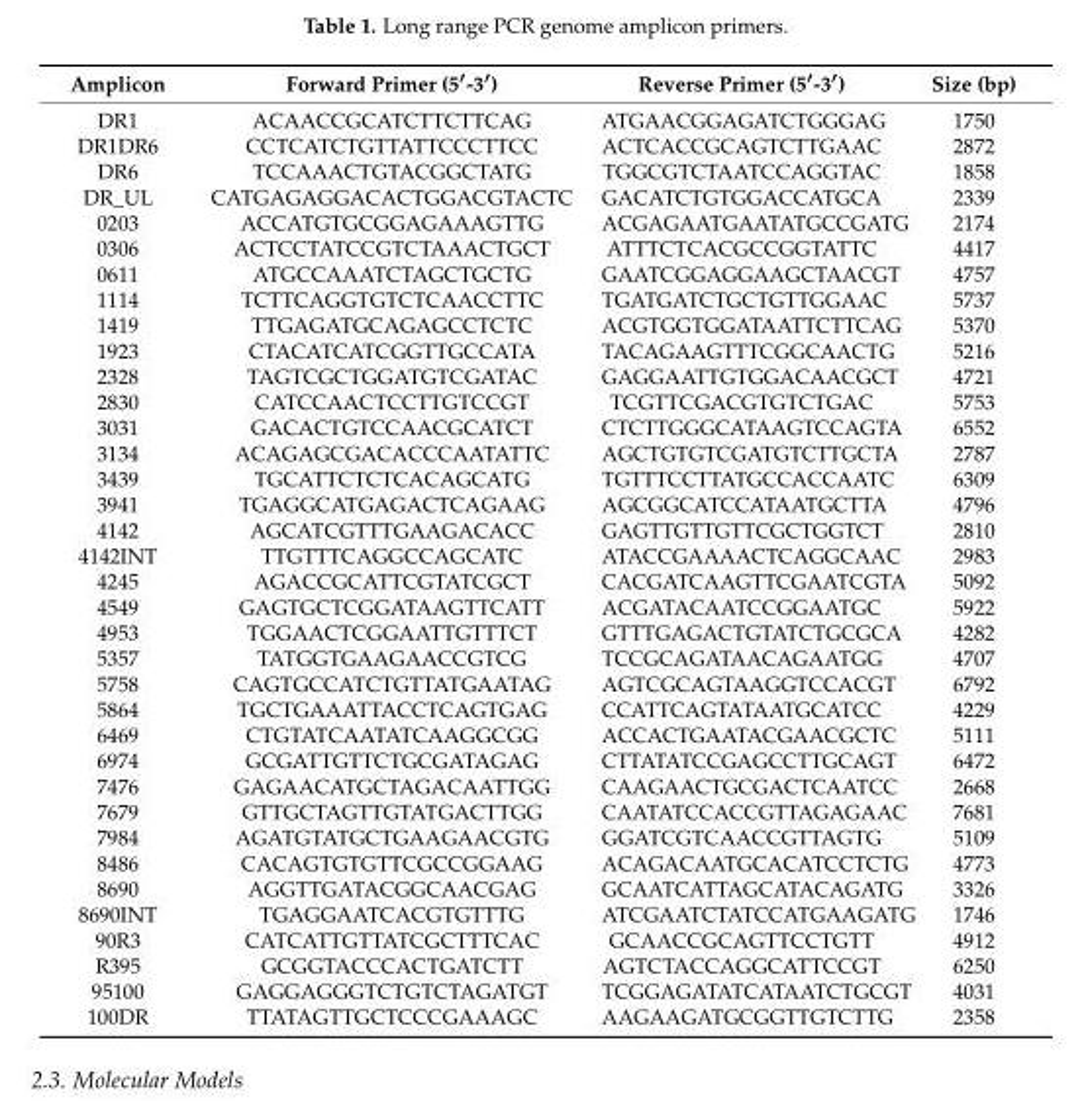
<table><thead><tr><td>Amplicon</td><td>Forward Primer (5′-3′)</td><td>Reverse Primer (5′-3′)</td><td>Size (bp)</td></tr></thead><tbody><tr><td>DR1</td><td>ACAACCGCATCTTCTTCAG</td><td>ATGAACGGAGATCTGGGAG</td><td>1750</td></tr><tr><td>DR1DR6</td><td>CCTCATCTGTTATTCCCTTCC</td><td>ACTCACCGCAGTCTTGAAC</td><td>2872</td></tr><tr><td>DR6</td><td>TCCAAACTGTACGGCTATG</td><td>TGGCGTCTAATCCAGGTAC</td><td>1858</td></tr><tr><td>DR_UL</td><td>CATGAGAGGACACTGGACGTACTC</td><td>GACATCTGTGGACCATGCA</td><td>2339</td></tr><tr><td>0203</td><td>ACCATGTGCGGAGAAAGTTG</td><td>ACGAGAATGAATATGCCGATG</td><td>2174</td></tr><tr><td>0306</td><td>ACTCCTATCCGTCTAAACTGCT</td><td>ATTTCTCACGCCGGTATTC</td><td>4417</td></tr><tr><td>0611</td><td>ATGCCAAATCTAGCTGCTG</td><td>GAATCGGAGGAAGCTAACGT</td><td>4757</td></tr><tr><td>1114</td><td>TCTTCAGGTGTCTCAACCTTC</td><td>TGATGATCTGCTGTTGGAAC</td><td>5737</td></tr><tr><td>1419</td><td>TTGAGATGCAGAGCCTCTC</td><td>ACGTGGTGGATAATTCTTCAG</td><td>5370</td></tr><tr><td>1923</td><td>CTACATCATCGGTTGCCATA</td><td>TACAGAAGTTTCGGCAACTG</td><td>5216</td></tr><tr><td>2328</td><td>TAGTCGCTGGATGTCGATAC</td><td>GAGGAATTGTGGACAACGCT</td><td>4721</td></tr><tr><td>2830</td><td>CATCCAACTCCTTGTCCGT</td><td>TCGTTCGACGTGTCTGAC</td><td>5753</td></tr><tr><td>3031</td><td>GACACTGTCCAACGCATCT</td><td>CTCTTGGGCATAAGTCCAGTA</td><td>6552</td></tr><tr><td>3134</td><td>ACAGAGCGACACCCAATATTC</td><td>AGCTGTGTCGATGTCTTGCTA</td><td>2787</td></tr><tr><td>3439</td><td>TGCATTCTCTCACAGCATG</td><td>TGTTTCCTTATGCCACCAATC</td><td>6309</td></tr><tr><td>3941</td><td>TGAGGCATGAGACTCAGAAG</td><td>AGCGGCATCCATAATGCTTA</td><td>4796</td></tr><tr><td>4142</td><td>AGCATCGTTTGAAGACACC</td><td>GAGTTGTTGTTCGCTGGTCT</td><td>2810</td></tr><tr><td>4142INT</td><td>TTGTTTCAGGCCAGCATC</td><td>ATACCGAAAACTCAGGCAAC</td><td>2983</td></tr><tr><td>4245</td><td>AGACCGCATTCGTATCGCT</td><td>CACGATCAAGTTCGAATCGTA</td><td>5092</td></tr><tr><td>4549</td><td>GAGTGCTCGGATAAGTTCATT</td><td>ACGATACAATCCGGAATGC</td><td>5922</td></tr><tr><td>4953</td><td>TGGAACTCGGAATTGTTTCT</td><td>GTTTGAGACTGTATCTGCGCA</td><td>4282</td></tr><tr><td>5357</td><td>TATGGTGAAGAACCGTCG</td><td>TCCGCAGATAACAGAATGG</td><td>4707</td></tr><tr><td>5758</td><td>CAGTGCCATCTGTTATGAATAG</td><td>AGTCGCAGTAAGGTCCACGT</td><td>6792</td></tr><tr><td>5864</td><td>TGCTGAAATTACCTCAGTGAG</td><td>CCATTCAGTATAATGCATCC</td><td>4229</td></tr><tr><td>6469</td><td>CTGTATCAATATCAAGGCGG</td><td>ACCACTGAATACGAACGCTC</td><td>5111</td></tr><tr><td>6974</td><td>GCGATTGTTCTGCGATAGAG</td><td>CTTATATCCGAGCCTTGCAGT</td><td>6472</td></tr><tr><td>7476</td><td>GAGAACATGCTAGACAATTGG</td><td>CAAGAACTGCGACTCAATCC</td><td>2668</td></tr><tr><td>7679</td><td>GTTGCTAGTTGTATGACTTGG</td><td>CAATATCCACCGTTAGAGAAC</td><td>7681</td></tr><tr><td>7984</td><td>AGATGTATGCTGAAGAACGTG</td><td>GGATCGTCAACCGTTAGTG</td><td>5109</td></tr><tr><td>8486</td><td>CACAGTGTGTTCGCCGGAAG</td><td>ACAGACAATGCACATCCTCTG</td><td>4773</td></tr><tr><td>8690</td><td>AGGTTGATACGGCAACGAG</td><td>GCAATCATTAGCATACAGATG</td><td>3326</td></tr><tr><td>8690INT</td><td>TGAGGAATCACGTGTTTG</td><td>ATCGAATCTATCCATGAAGATG</td><td>1746</td></tr><tr><td>90R3</td><td>CATCATTGTTATCGCTTTCAC</td><td>GCAACCGCAGTTCCTGTT</td><td>4912</td></tr><tr><td>R395</td><td>GCGGTACCCACTGATCTT</td><td>AGTCTACCAGGCATTCCGT</td><td>6250</td></tr><tr><td>95100</td><td>GAGGAGGGTCTGTCTAGATGT</td><td>TCGGAGATATCATAATCTGCGT</td><td>4031</td></tr><tr><td>100DR</td><td>TTATAGTTGCTCCCGAAAGC</td><td>AAGAAGATGCGGTTGTCTTG</td><td>2358</td></tr></tbody></table>